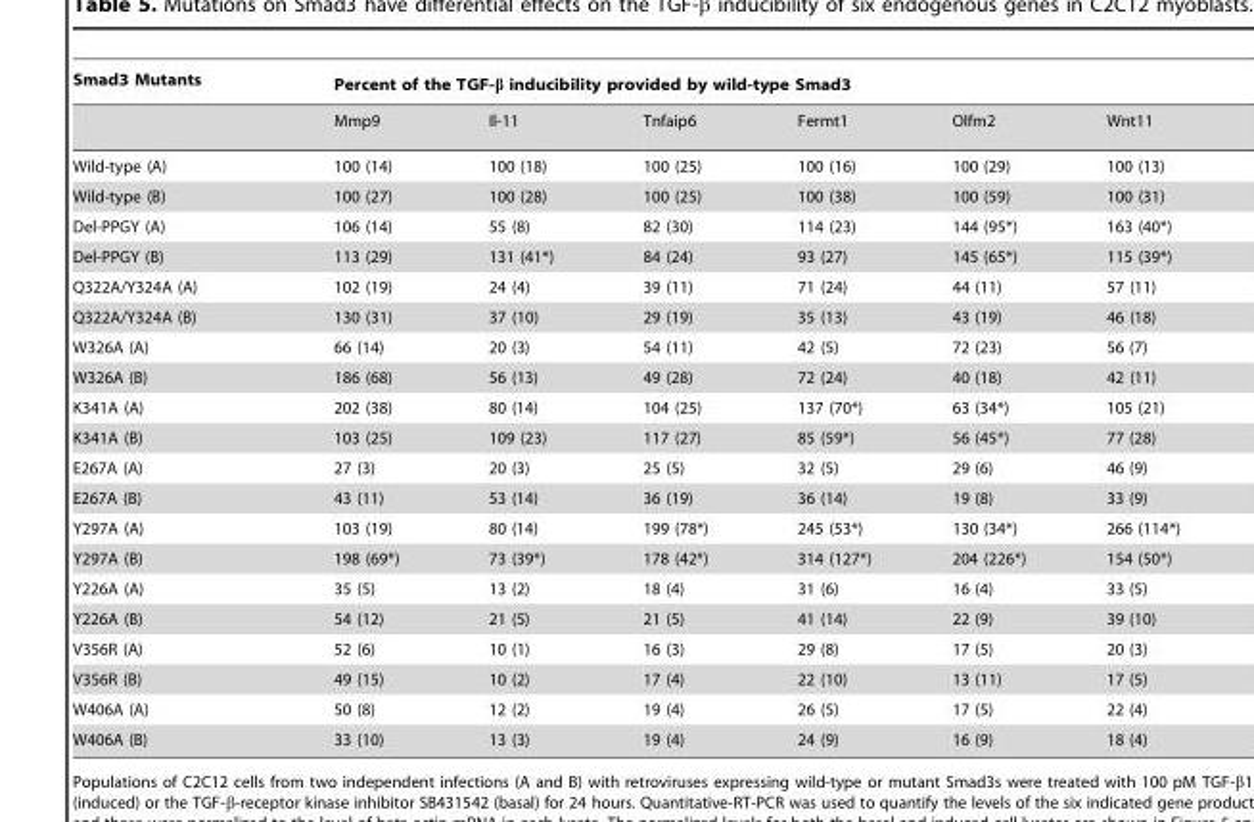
<table><thead><tr><td rowspan="2">Smad3 Mutants</td><td colspan="6">Percent of the TGF-β inducibility provided by wild-type Smad3</td></tr><tr><td>Mmp9</td><td>Il-11</td><td>Tnfaip6</td><td>Fermt1</td><td>Olfm2</td><td>Wnt11</td></tr></thead><tbody><tr><td>Wild-type (A)</td><td>100 (14)</td><td>100 (18)</td><td>100 (25)</td><td>100 (16)</td><td>100 (29)</td><td>100 (13)</td></tr><tr><td>Wild-type (B)</td><td>100 (27)</td><td>100 (28)</td><td>100 (25)</td><td>100 (38)</td><td>100 (59)</td><td>100 (31)</td></tr><tr><td>Del-PPGY (A)</td><td>106 (14)</td><td>55 (8)</td><td>82 (30)</td><td>114 (23)</td><td>144 (95*)</td><td>163 (40*)</td></tr><tr><td>Del-PPGY (B)</td><td>113 (29)</td><td>131 (41*)</td><td>84 (24)</td><td>93 (27)</td><td>145 (65*)</td><td>115 (39*)</td></tr><tr><td>Q322A/Y324A (A)</td><td>102 (19)</td><td>24 (4)</td><td>39 (11)</td><td>71 (24)</td><td>44 (11)</td><td>57 (11)</td></tr><tr><td>Q322A/Y324A (B)</td><td>130 (31)</td><td>37 (10)</td><td>29 (19)</td><td>35 (13)</td><td>43 (19)</td><td>46 (18)</td></tr><tr><td>W326A (A)</td><td>66 (14)</td><td>20 (3)</td><td>54 (11)</td><td>42 (5)</td><td>72 (23)</td><td>56 (7)</td></tr><tr><td>W326A (B)</td><td>186 (68)</td><td>56 (13)</td><td>49 (28)</td><td>72 (24)</td><td>40 (18)</td><td>42 (11)</td></tr><tr><td>K341A (A)</td><td>202 (38)</td><td>80 (14)</td><td>104 (25)</td><td>137 (70*)</td><td>63 (34*)</td><td>105 (21)</td></tr><tr><td>K341A (B)</td><td>103 (25)</td><td>109 (23)</td><td>117 (27)</td><td>85 (59*)</td><td>56 (45*)</td><td>77 (28)</td></tr><tr><td>E267A (A)</td><td>27 (3)</td><td>20 (3)</td><td>25 (5)</td><td>32 (5)</td><td>29 (6)</td><td>46 (9)</td></tr><tr><td>E267A (B)</td><td>43 (11)</td><td>53 (14)</td><td>36 (19)</td><td>36 (14)</td><td>19 (8)</td><td>33 (9)</td></tr><tr><td>Y297A (A)</td><td>103 (19)</td><td>80 (14)</td><td>199 (78*)</td><td>245 (53*)</td><td>130 (34*)</td><td>266 (114*)</td></tr><tr><td>Y297A (B)</td><td>198 (69*)</td><td>73 (39*)</td><td>178 (42*)</td><td>314 (127*)</td><td>204 (226*)</td><td>154 (50*)</td></tr><tr><td>Y226A (A)</td><td>35 (5)</td><td>13 (2)</td><td>18 (4)</td><td>31 (6)</td><td>16 (4)</td><td>33 (5)</td></tr><tr><td>Y226A (B)</td><td>54 (12)</td><td>21 (5)</td><td>21 (5)</td><td>41 (14)</td><td>22 (9)</td><td>39 (10)</td></tr><tr><td>V356R (A)</td><td>52 (6)</td><td>10 (1)</td><td>16 (3)</td><td>29 (8)</td><td>17 (5)</td><td>20 (3)</td></tr><tr><td>V356R (B)</td><td>49 (15)</td><td>10 (2)</td><td>17 (4)</td><td>22 (10)</td><td>13 (11)</td><td>17 (5)</td></tr><tr><td>W406A (A)</td><td>50 (8)</td><td>12 (2)</td><td>19 (4)</td><td>26 (5)</td><td>17 (5)</td><td>22 (4)</td></tr><tr><td>W406A (B)</td><td>33 (10)</td><td>13 (3)</td><td>19 (4)</td><td>24 (9)</td><td>16 (9)</td><td>18 (4)</td></tr></tbody></table>